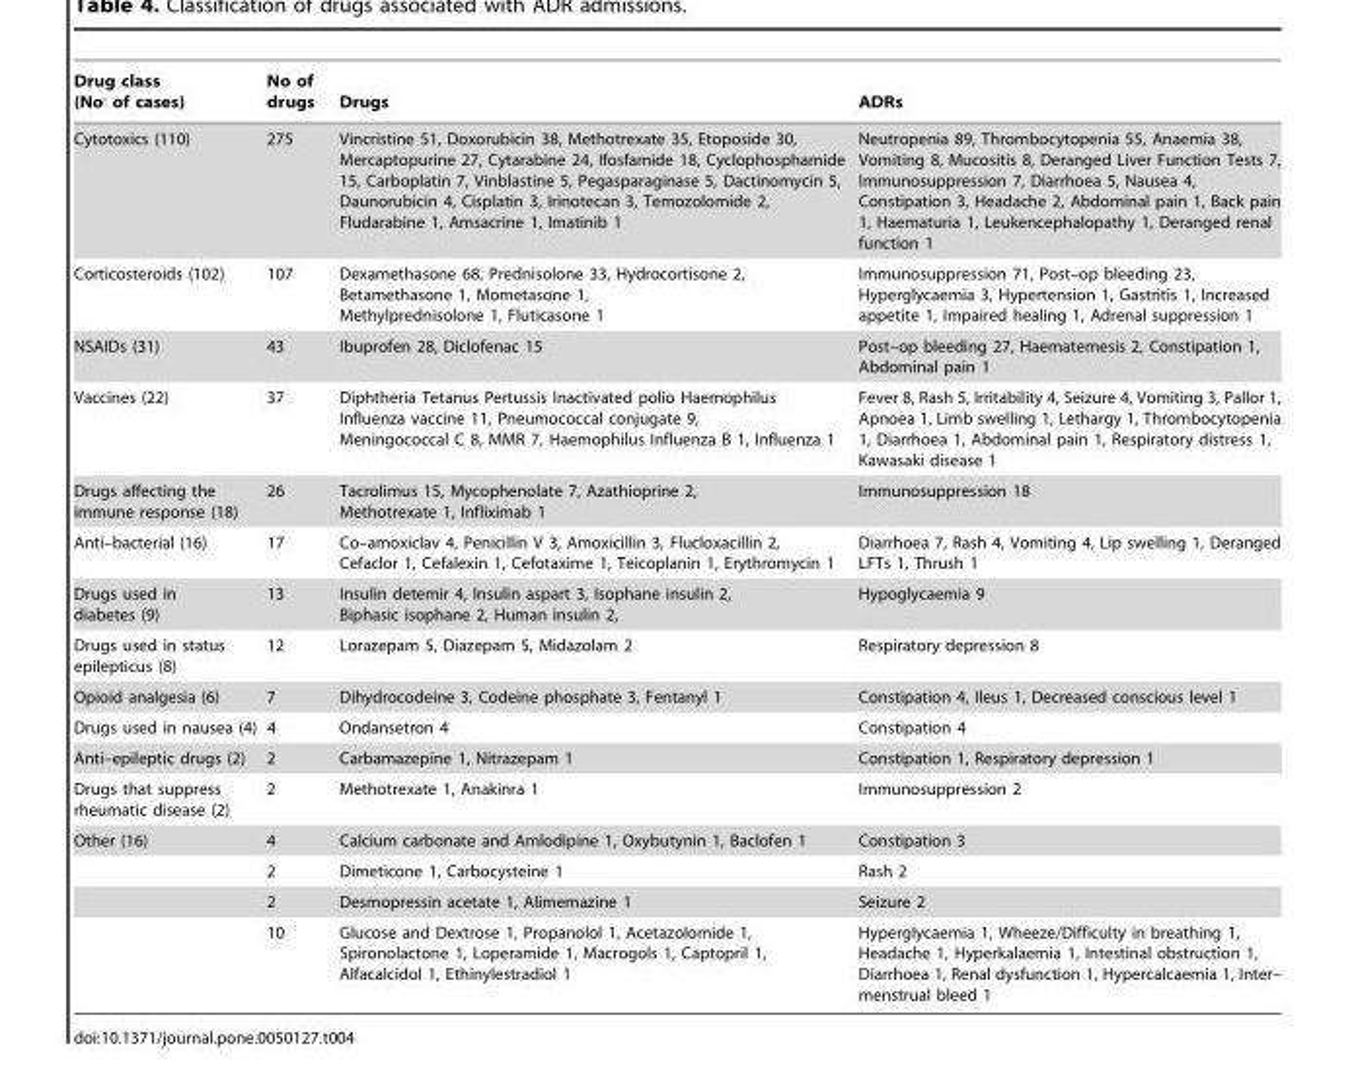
<table><thead><tr><td>Drug class (No<sup>.</sup> of cases)</td><td>No of drugs</td><td>Drugs</td><td>ADRs</td></tr></thead><tbody><tr><td>Cytotoxics (110)</td><td>275</td><td>Vincristine 51, Doxorubicin 38, Methotrexate 35, Etoposide 30, Mercaptopurine 27, Cytarabine 24, Ifosfamide 18, Cyclophosphamide 15, Carboplatin 7, Vinblastine 5, Pegasparaginase 5, Dactinomycin 5, Daunorubicin 4, Cisplatin 3, Irinotecan 3, Temozolomide 2, Fludarabine 1, Amsacrine 1, Imatinib 1</td><td>Neutropenia 89, Thrombocytopenia 55, Anaemia 38, Vomiting 8, Mucositis 8, Deranged Liver Function Tests 7, Immunosuppression 7, Diarrhoea 5, Nausea 4, Constipation 3, Headache 2, Abdominal pain 1, Back pain 1, Haematuria 1, Leukencephalopathy 1, Deranged renal function 1</td></tr><tr><td>Corticosteroids (102)</td><td>107</td><td>Dexamethasone 68, Prednisolone 33, Hydrocortisone 2, Betamethasone 1, Mometasone 1, Methylprednisolone 1, Fluticasone 1</td><td>Immunosuppression 71, Post–op bleeding 23, Hyperglycaemia 3, Hypertension 1, Gastritis 1, Increased appetite 1, Impaired healing 1, Adrenal suppression 1</td></tr><tr><td>NSAIDs (31)</td><td>43</td><td>Ibuprofen 28, Diclofenac 15</td><td>Post–op bleeding 27, Haematemesis 2, Constipation 1, Abdominal pain 1</td></tr><tr><td>Vaccines (22)</td><td>37</td><td>Diphtheria Tetanus Pertussis Inactivated polio Haemophilus Influenza vaccine 11, Pneumococcal conjugate 9, Meningococcal C 8, MMR 7, Haemophilus Influenza B 1, Influenza 1</td><td>Fever 8, Rash 5, Irritability 4, Seizure 4, Vomiting 3, Pallor 1, Apnoea 1, Limb swelling 1, Lethargy 1, Thrombocytopenia 1, Diarrhoea 1, Abdominal pain 1, Respiratory distress 1, Kawasaki disease 1</td></tr><tr><td>Drugs affecting the immune response (18)</td><td>26</td><td>Tacrolimus 15, Mycophenolate 7, Azathioprine 2, Methotrexate 1, Infliximab 1</td><td>Immunosuppression 18</td></tr><tr><td>Anti–bacterial (16)</td><td>17</td><td>Co–amoxiclav 4, Penicillin V 3, Amoxicillin 3, Flucloxacillin 2, Cefaclor 1, Cefalexin 1, Cefotaxime 1, Teicoplanin 1, Erythromycin 1</td><td>Diarrhoea 7, Rash 4, Vomiting 4, Lip swelling 1, Deranged LFTs 1, Thrush 1</td></tr><tr><td>Drugs used in diabetes (9)</td><td>13</td><td>Insulin detemir 4, Insulin aspart 3, Isophane insulin 2, Biphasic isophane 2, Human insulin 2,</td><td>Hypoglycaemia 9</td></tr><tr><td>Drugs used in status epilepticus (8)</td><td>12</td><td>Lorazepam 5, Diazepam 5, Midazolam 2</td><td>Respiratory depression 8</td></tr><tr><td>Opioid analgesia (6)</td><td>7</td><td>Dihydrocodeine 3, Codeine phosphate 3, Fentanyl 1</td><td>Constipation 4, Ileus 1, Decreased conscious level 1</td></tr><tr><td>Drugs used in nausea (4)</td><td>4</td><td>Ondansetron 4</td><td>Constipation 4</td></tr><tr><td>Anti–epileptic drugs (2)</td><td>2</td><td>Carbamazepine 1, Nitrazepam 1</td><td>Constipation 1, Respiratory depression 1</td></tr><tr><td>Drugs that suppress rheumatic disease (2)</td><td>2</td><td>Methotrexate 1, Anakinra 1</td><td>Immunosuppression 2</td></tr><tr><td rowspan="4">Other (16)</td><td>4</td><td>Calcium carbonate and Amlodipine 1, Oxybutynin 1, Baclofen 1</td><td>Constipation 3</td></tr><tr><td>2</td><td>Dimeticone 1, Carbocysteine 1</td><td>Rash 2</td></tr><tr><td>2</td><td>Desmopressin acetate 1, Alimemazine 1</td><td>Seizure 2</td></tr><tr><td>10</td><td>Glucose and Dextrose 1, Propanolol 1, Acetazolomide 1, Spironolactone 1, Loperamide 1, Macrogols 1, Captopril 1, Alfacalcidol 1, Ethinylestradiol 1</td><td>Hyperglycaemia 1, Wheeze/Difficulty in breathing 1, Headache 1, Hyperkalaemia 1, Intestinal obstruction 1, Diarrhoea 1, Renal dysfunction 1, Hypercalcaemia 1, Inter– menstrual bleed 1</td></tr></tbody></table>